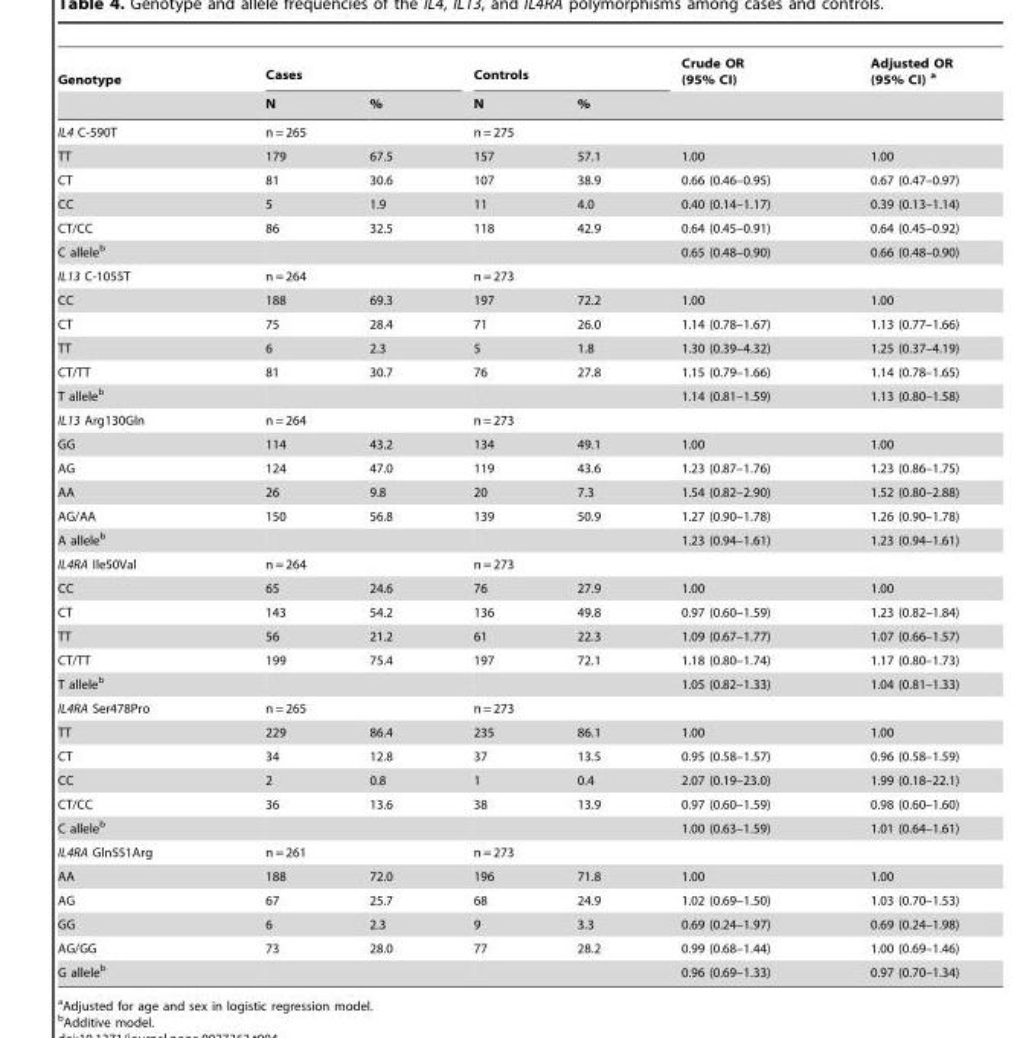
<table><thead><tr><td rowspan="2">Genotype</td><td colspan="2">Cases</td><td colspan="2">Controls</td><td rowspan="2">Crude OR (95% CI)</td><td rowspan="2">Adjusted OR (95% CI) a</td></tr><tr><td>N</td><td>%</td><td>N</td><td>%</td></tr></thead><tbody><tr><td>IL4 C-590T</td><td colspan="2">n = 265</td><td colspan="2">n = 275</td><td></td><td></td></tr><tr><td>TT</td><td>179</td><td>67.5</td><td>157</td><td>57.1</td><td>1.00</td><td>1.00</td></tr><tr><td>CT</td><td>81</td><td>30.6</td><td>107</td><td>38.9</td><td>0.66 (0.46–0.95)</td><td>0.67 (0.47–0.97)</td></tr><tr><td>CC</td><td>5</td><td>1.9</td><td>11</td><td>4.0</td><td>0.40 (0.14–1.17)</td><td>0.39 (0.13–1.14)</td></tr><tr><td>CT/CC</td><td>86</td><td>32.5</td><td>118</td><td>42.9</td><td>0.64 (0.45–0.91)</td><td>0.64 (0.45–0.92)</td></tr><tr><td>C allele<sup>b</sup></td><td colspan="2"></td><td colspan="2"></td><td>0.65 (0.48–0.90)</td><td>0.66 (0.48–0.90)</td></tr><tr><td>IL13 C-1055T</td><td colspan="2">n = 264</td><td colspan="2">n = 273</td><td></td><td></td></tr><tr><td>CC</td><td>188</td><td>69.3</td><td>197</td><td>72.2</td><td>1.00</td><td>1.00</td></tr><tr><td>CT</td><td>75</td><td>28.4</td><td>71</td><td>26.0</td><td>1.14 (0.78–1.67)</td><td>1.13 (0.77–1.66)</td></tr><tr><td>TT</td><td>6</td><td>2.3</td><td>5</td><td>1.8</td><td>1.30 (0.39–4.32)</td><td>1.25 (0.37–4.19)</td></tr><tr><td>CT/TT</td><td>81</td><td>30.7</td><td>76</td><td>27.8</td><td>1.15 (0.79–1.66)</td><td>1.14 (0.78–1.65)</td></tr><tr><td>T allele<sup>b</sup></td><td colspan="2"></td><td colspan="2"></td><td>1.14 (0.81–1.59)</td><td>1.13 (0.80–1.58)</td></tr><tr><td>IL13 Arg130Gln</td><td colspan="2">n = 264</td><td colspan="2">n = 273</td><td></td><td></td></tr><tr><td>GG</td><td>114</td><td>43.2</td><td>134</td><td>49.1</td><td>1.00</td><td>1.00</td></tr><tr><td>AG</td><td>124</td><td>47.0</td><td>119</td><td>43.6</td><td>1.23 (0.87–1.76)</td><td>1.23 (0.86–1.75)</td></tr><tr><td>AA</td><td>26</td><td>9.8</td><td>20</td><td>7.3</td><td>1.54 (0.82–2.90)</td><td>1.52 (0.80–2.88)</td></tr><tr><td>AG/AA</td><td>150</td><td>56.8</td><td>139</td><td>50.9</td><td>1.27 (0.90–1.78)</td><td>1.26 (0.90–1.78)</td></tr><tr><td>A allele<sup>b</sup></td><td colspan="2"></td><td colspan="2"></td><td>1.23 (0.94–1.61)</td><td>1.23 (0.94–1.61)</td></tr><tr><td>IL4RA Ile50Val</td><td colspan="2">n = 264</td><td colspan="2">n = 273</td><td></td><td></td></tr><tr><td>CC</td><td>65</td><td>24.6</td><td>76</td><td>27.9</td><td>1.00</td><td>1.00</td></tr><tr><td>CT</td><td>143</td><td>54.2</td><td>136</td><td>49.8</td><td>0.97 (0.60–1.59)</td><td>1.23 (0.82–1.84)</td></tr><tr><td>TT</td><td>56</td><td>21.2</td><td>61</td><td>22.3</td><td>1.09 (0.67–1.77)</td><td>1.07 (0.66–1.57)</td></tr><tr><td>CT/TT</td><td>199</td><td>75.4</td><td>197</td><td>72.1</td><td>1.18 (0.80–1.74)</td><td>1.17 (0.80–1.73)</td></tr><tr><td>T allele<sup>b</sup></td><td colspan="2"></td><td colspan="2"></td><td>1.05 (0.82–1.33)</td><td>1.04 (0.81–1.33)</td></tr><tr><td>IL4RA Ser478Pro</td><td colspan="2">n = 265</td><td colspan="2">n = 273</td><td></td><td></td></tr><tr><td>TT</td><td>229</td><td>86.4</td><td>235</td><td>86.1</td><td>1.00</td><td>1.00</td></tr><tr><td>CT</td><td>34</td><td>12.8</td><td>37</td><td>13.5</td><td>0.95 (0.58–1.57)</td><td>0.96 (0.58–1.59)</td></tr><tr><td>CC</td><td>2</td><td>0.8</td><td>1</td><td>0.4</td><td>2.07 (0.19–23.0)</td><td>1.99 (0.18–22.1)</td></tr><tr><td>CT/CC</td><td>36</td><td>13.6</td><td>38</td><td>13.9</td><td>0.97 (0.60–1.59)</td><td>0.98 (0.60–1.60)</td></tr><tr><td>C allele<sup>b</sup></td><td colspan="2"></td><td colspan="2"></td><td>1.00 (0.63–1.59)</td><td>1.01 (0.64–1.61)</td></tr><tr><td>IL4RA Gln551Arg</td><td colspan="2">n = 261</td><td colspan="2">n = 273</td><td></td><td></td></tr><tr><td>AA</td><td>188</td><td>72.0</td><td>196</td><td>71.8</td><td>1.00</td><td>1.00</td></tr><tr><td>AG</td><td>67</td><td>25.7</td><td>68</td><td>24.9</td><td>1.02 (0.69–1.50)</td><td>1.03 (0.70–1.53)</td></tr><tr><td>GG</td><td>6</td><td>2.3</td><td>9</td><td>3.3</td><td>0.69 (0.24–1.97)</td><td>0.69 (0.24–1.98)</td></tr><tr><td>AG/GG</td><td>73</td><td>28.0</td><td>77</td><td>28.2</td><td>0.99 (0.68–1.44)</td><td>1.00 (0.69–1.46)</td></tr><tr><td>G allele<sup>b</sup></td><td colspan="2"></td><td colspan="2"></td><td>0.96 (0.69–1.33)</td><td>0.97 (0.70–1.34)</td></tr></tbody></table>